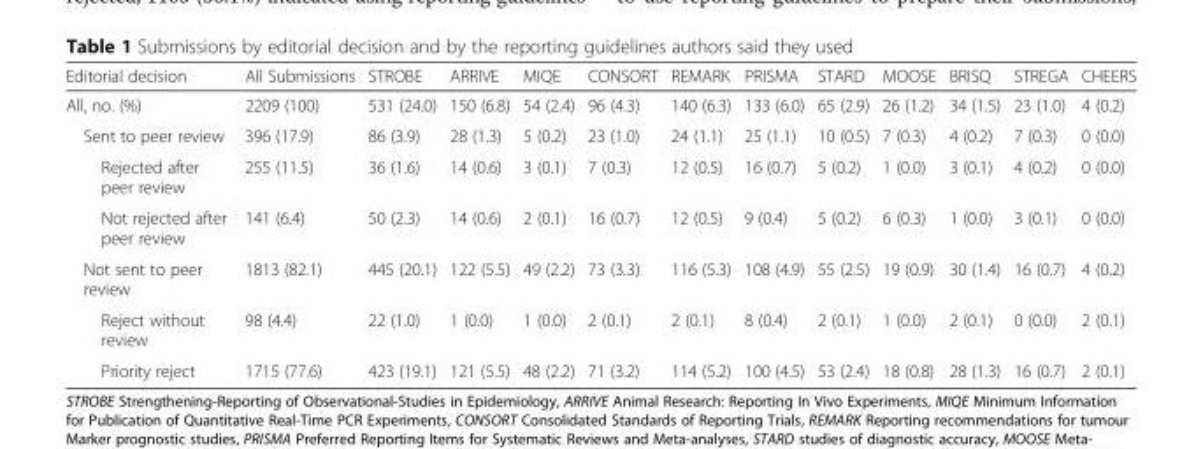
<table><thead><tr><td>Editorial decision</td><td>All Submissions</td><td>STROBE</td><td>ARRIVE</td><td>MIQE</td><td>CONSORT</td><td>REMARK</td><td>PRISMA</td><td>STARD</td><td>MOOSE</td><td>BRISQ</td><td>STREGA</td><td>CHEERS</td></tr></thead><tbody><tr><td>All, no. (%)</td><td>2209 (100)</td><td>531 (24.0)</td><td>150 (6.8)</td><td>54 (2.4)</td><td>96 (4.3)</td><td>140 (6.3)</td><td>133 (6.0)</td><td>65 (2.9)</td><td>26 (1.2)</td><td>34 (1.5)</td><td>23 (1.0)</td><td>4 (0.2)</td></tr><tr><td>Sent to peer review</td><td>396 (17.9)</td><td>86 (3.9)</td><td>28 (1.3)</td><td>5 (0.2)</td><td>23 (1.0)</td><td>24 (1.1)</td><td>25 (1.1)</td><td>10 (0.5)</td><td>7 (0.3)</td><td>4 (0.2)</td><td>7 (0.3)</td><td>0 (0.0)</td></tr><tr><td>Rejected after peer review</td><td>255 (11.5)</td><td>36 (1.6)</td><td>14 (0.6)</td><td>3 (0.1)</td><td>7 (0.3)</td><td>12 (0.5)</td><td>16 (0.7)</td><td>5 (0.2)</td><td>1 (0.0)</td><td>3 (0.1)</td><td>4 (0.2)</td><td>0 (0.0)</td></tr><tr><td>Not rejected after peer review</td><td>141 (6.4)</td><td>50 (2.3)</td><td>14 (0.6)</td><td>2 (0.1)</td><td>16 (0.7)</td><td>12 (0.5)</td><td>9 (0.4)</td><td>5 (0.2)</td><td>6 (0.3)</td><td>1 (0.0)</td><td>3 (0.1)</td><td>0 (0.0)</td></tr><tr><td>Not sent to peer review</td><td>1813 (82.1)</td><td>445 (20.1)</td><td>122 (5.5)</td><td>49 (2.2)</td><td>73 (3.3)</td><td>116 (5.3)</td><td>108 (4.9)</td><td>55 (2.5)</td><td>19 (0.9)</td><td>30 (1.4)</td><td>16 (0.7)</td><td>4 (0.2)</td></tr><tr><td>Reject without review</td><td>98 (4.4)</td><td>22 (1.0)</td><td>1 (0.0)</td><td>1 (0.0)</td><td>2 (0.1)</td><td>2 (0.1)</td><td>8 (0.4)</td><td>2 (0.1)</td><td>1 (0.0)</td><td>2 (0.1)</td><td>0 (0.0)</td><td>2 (0.1)</td></tr><tr><td>Priority reject</td><td>1715 (77.6)</td><td>423 (19.1)</td><td>121 (5.5)</td><td>48 (2.2)</td><td>71 (3.2)</td><td>114 (5.2)</td><td>100 (4.5)</td><td>53 (2.4)</td><td>18 (0.8)</td><td>28 (1.3)</td><td>16 (0.7)</td><td>2 (0.1)</td></tr></tbody></table>